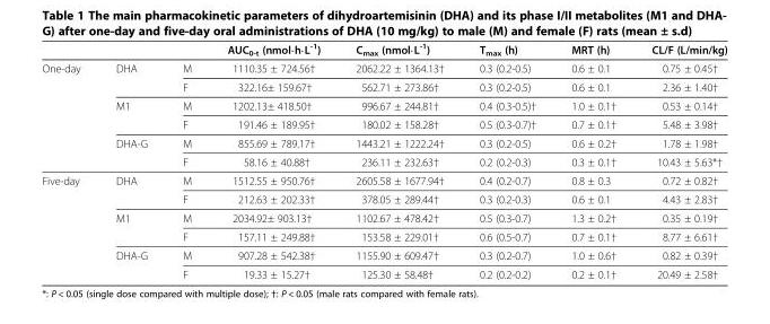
<table><thead><tr><td></td><td></td><td></td><td>AUC<sub>0-t</sub> (nmol⋅h⋅L<sup>-1</sup>)</td><td>C<sub>max</sub> (nmol⋅L<sup>-1</sup>)</td><td>T<sub>max</sub> (h)</td><td>MRT (h)</td><td>CL/F (L/min/kg)</td></tr></thead><tbody><tr><td rowspan="6">One-day</td><td rowspan="2">DHA</td><td>M</td><td>1110.35 ± 724.56†</td><td>2062.22 ± 1364.13†</td><td>0.3 (0.2-0.5)</td><td>0.6 ± 0.1</td><td>0.75 ± 0.45†</td></tr><tr><td>F</td><td>322.16± 159.67†</td><td>562.71 ± 273.86†</td><td>0.3 (0.2-0.5)</td><td>0.6 ± 0.1</td><td>2.36 ± 1.40†</td></tr><tr><td rowspan="2">M1</td><td>M</td><td>1202.13± 418.50†</td><td>996.67 ± 244.81†</td><td>0.4 (0.3-0.5)†</td><td>1.0 ± 0.1†</td><td>0.53 ± 0.14†</td></tr><tr><td>F</td><td>191.46 ± 189.95†</td><td>180.02 ± 158.28†</td><td>0.5 (0.3-0.7)†</td><td>0.7 ± 0.1†</td><td>5.48 ± 3.98†</td></tr><tr><td rowspan="2">DHA-G</td><td>M</td><td>855.69 ± 789.17†</td><td>1443.21 ± 1222.24†</td><td>0.3 (0.2-0.5)</td><td>0.6 ± 0.2†</td><td>1.78 ± 1.98†</td></tr><tr><td>F</td><td>58.16 ± 40.88†</td><td>236.11 ± 232.63†</td><td>0.2 (0.2-0.3)</td><td>0.3 ± 0.1†</td><td>10.43 ± 5.63*†</td></tr><tr><td rowspan="6">Five-day</td><td rowspan="2">DHA</td><td>M</td><td>1512.55 ± 950.76†</td><td>2605.58 ± 1677.94†</td><td>0.4 (0.2-0.7)</td><td>0.8 ± 0.3</td><td>0.72 ± 0.82†</td></tr><tr><td>F</td><td>212.63 ± 202.33†</td><td>378.05 ± 289.44†</td><td>0.3 (0.2-0.3)</td><td>0.6 ± 0.1</td><td>4.43 ± 2.83†</td></tr><tr><td rowspan="2">M1</td><td>M</td><td>2034.92± 903.13†</td><td>1102.67 ± 478.42†</td><td>0.5 (0.3-0.7)</td><td>1.3 ± 0.2†</td><td>0.35 ± 0.19†</td></tr><tr><td>F</td><td>157.11 ± 249.88†</td><td>153.58 ± 229.01†</td><td>0.6 (0.5-0.7)</td><td>0.7 ± 0.1†</td><td>8.77 ± 6.61†</td></tr><tr><td rowspan="2">DHA-G</td><td>M</td><td>907.28 ± 542.38†</td><td>1155.90 ± 609.47†</td><td>0.3 (0.2-0.7)</td><td>1.0 ± 0.6†</td><td>0.82 ± 0.39†</td></tr><tr><td>F</td><td>19.33 ± 15.27†</td><td>125.30 ± 58.48†</td><td>0.2 (0.2-0.2)</td><td>0.2 ± 0.1†</td><td>20.49 ± 2.58†</td></tr></tbody></table>